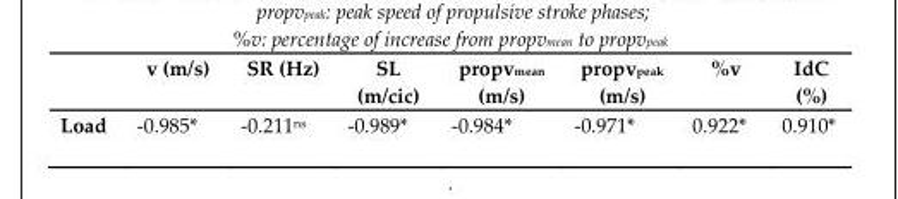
<table><thead><tr><td></td><td>v (m/s)</td><td>SR (Hz)</td><td>SL (m/cic)</td><td>propv<sub>mean</sub> (m/s)</td><td>propv<sub>peak</sub> (m/s)</td><td>%v</td><td>IdC (%)</td></tr></thead><tbody><tr><td>Load</td><td>-0.985*</td><td>-0.211<sup>ns</sup></td><td>-0.989*</td><td>-0.984*</td><td>-0.971*</td><td>0.922*</td><td>0.910*</td></tr></tbody></table>